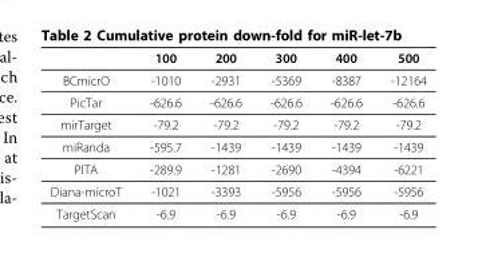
<table><thead><tr><td></td><td>100</td><td>200</td><td>300</td><td>400</td><td>500</td></tr></thead><tbody><tr><td>BCmicrO</td><td>-1010</td><td>-2931</td><td>-5369</td><td>-8387</td><td>-12164</td></tr><tr><td>PicTar</td><td>-626.6</td><td>-626.6</td><td>-626.6</td><td>-626.6</td><td>-626.6</td></tr><tr><td>mirTarget</td><td>-79.2</td><td>-79.2</td><td>-79.2</td><td>-79.2</td><td>-79.2</td></tr><tr><td>miRanda</td><td>-595.7</td><td>-1439</td><td>-1439</td><td>-1439</td><td>-1439</td></tr><tr><td>PITA</td><td>-289.9</td><td>-1281</td><td>-2690</td><td>-4394</td><td>-6221</td></tr><tr><td>Diana-microT</td><td>-1021</td><td>-3393</td><td>-5956</td><td>-5956</td><td>-5956</td></tr><tr><td>TargetScan</td><td>-6.9</td><td>-6.9</td><td>-6.9</td><td>-6.9</td><td>-6.9</td></tr></tbody></table>